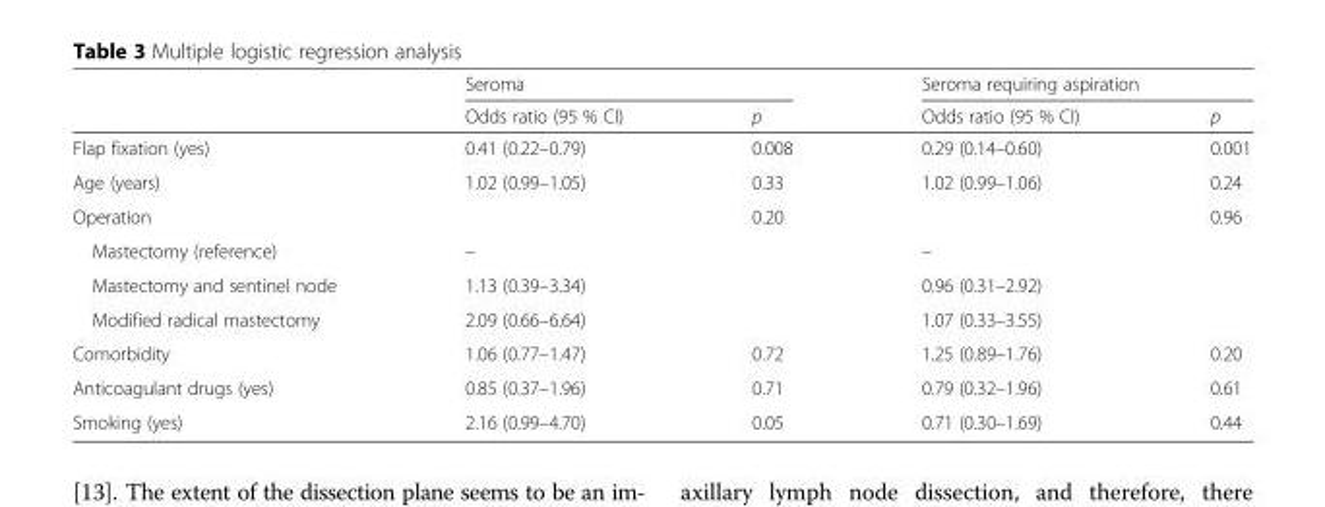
<table><thead><tr><td rowspan="2"></td><td colspan="2">Seroma</td><td colspan="2">Seroma requiring aspiration</td></tr><tr><td>Odds ratio (95 % CI)</td><td>p</td><td>Odds ratio (95 % CI)</td><td>p</td></tr></thead><tbody><tr><td>Flap fixation (yes)</td><td>0.41 (0.22–0.79)</td><td>0.008</td><td>0.29 (0.14–0.60)</td><td>0.001</td></tr><tr><td>Age (years)</td><td>1.02 (0.99–1.05)</td><td>0.33</td><td>1.02 (0.99–1.06)</td><td>0.24</td></tr><tr><td>Operation</td><td></td><td>0.20</td><td></td><td>0.96</td></tr><tr><td>Mastectomy (reference)</td><td>–</td><td></td><td>–</td><td></td></tr><tr><td>Mastectomy and sentinel node</td><td>1.13 (0.39–3.34)</td><td></td><td>0.96 (0.31–2.92)</td><td></td></tr><tr><td>Modified radical mastectomy</td><td>2.09 (0.66–6.64)</td><td></td><td>1.07 (0.33–3.55)</td><td></td></tr><tr><td>Comorbidity</td><td>1.06 (0.77–1.47)</td><td>0.72</td><td>1.25 (0.89–1.76)</td><td>0.20</td></tr><tr><td>Anticoagulant drugs (yes)</td><td>0.85 (0.37–1.96)</td><td>0.71</td><td>0.79 (0.32–1.96)</td><td>0.61</td></tr><tr><td>Smoking (yes)</td><td>2.16 (0.99–4.70)</td><td>0.05</td><td>0.71 (0.30–1.69)</td><td>0.44</td></tr></tbody></table>